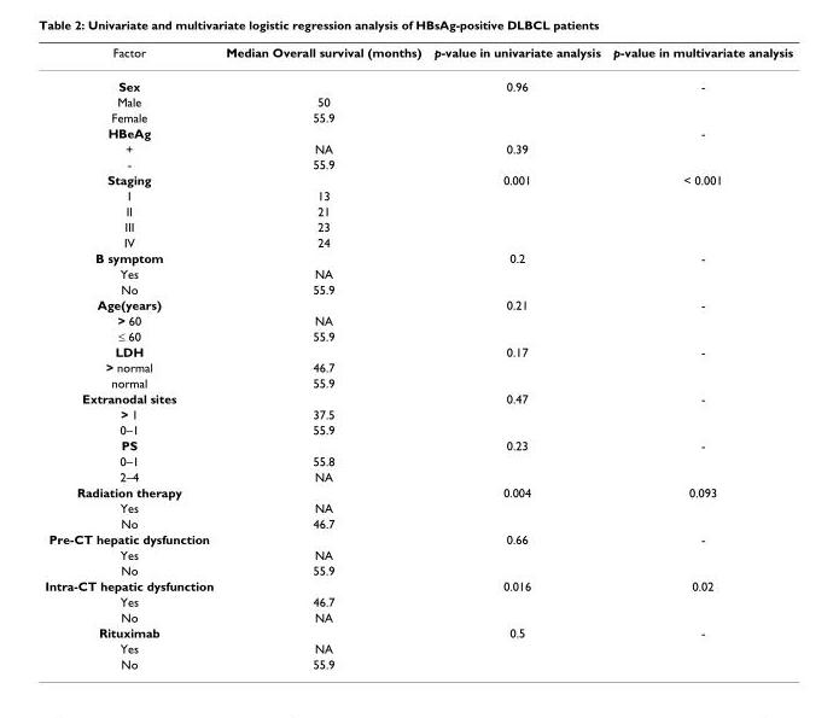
<table><thead><tr><td>Factor</td><td>Median Overall survival (months)</td><td>p-value in univariate analysis</td><td>p-value in multivariate analysis</td></tr></thead><tbody><tr><td>Sex</td><td></td><td>0.96</td><td>-</td></tr><tr><td>Male</td><td>50</td><td></td><td></td></tr><tr><td>Female</td><td>55.9</td><td></td><td></td></tr><tr><td>HBeAg</td><td></td><td></td><td>-</td></tr><tr><td>+</td><td>NA</td><td>0.39</td><td></td></tr><tr><td>-</td><td>55.9</td><td></td><td></td></tr><tr><td>Staging</td><td></td><td>0.001</td><td>&lt; 0.001</td></tr><tr><td>I</td><td>13</td><td></td><td></td></tr><tr><td>II</td><td>21</td><td></td><td></td></tr><tr><td>III</td><td>23</td><td></td><td></td></tr><tr><td>IV</td><td>24</td><td></td><td></td></tr><tr><td>B symptom</td><td></td><td>0.2</td><td>-</td></tr><tr><td>Yes</td><td>NA</td><td></td><td></td></tr><tr><td>No</td><td>55.9</td><td></td><td></td></tr><tr><td>Age(years)</td><td></td><td>0.21</td><td>-</td></tr><tr><td>&gt; 60</td><td>NA</td><td></td><td></td></tr><tr><td>≤ 60</td><td>55.9</td><td></td><td></td></tr><tr><td>LDH</td><td></td><td>0.17</td><td>-</td></tr><tr><td>&gt; normal</td><td>46.7</td><td></td><td></td></tr><tr><td>normal</td><td>55.9</td><td></td><td></td></tr><tr><td>Extranodal sites</td><td></td><td>0.47</td><td>-</td></tr><tr><td>&gt; 1</td><td>37.5</td><td></td><td></td></tr><tr><td>0–1</td><td>55.9</td><td></td><td></td></tr><tr><td>PS</td><td></td><td>0.23</td><td>-</td></tr><tr><td>0–1</td><td>55.8</td><td></td><td></td></tr><tr><td>2–4</td><td>NA</td><td></td><td></td></tr><tr><td>Radiation therapy</td><td></td><td>0.004</td><td>0.093</td></tr><tr><td>Yes</td><td>NA</td><td></td><td></td></tr><tr><td>No</td><td>46.7</td><td></td><td></td></tr><tr><td>Pre-CT hepatic dysfunction</td><td></td><td>0.66</td><td>-</td></tr><tr><td>Yes</td><td>NA</td><td></td><td></td></tr><tr><td>No</td><td>55.9</td><td></td><td></td></tr><tr><td>Intra-CT hepatic dysfunction</td><td></td><td>0.016</td><td>0.02</td></tr><tr><td>Yes</td><td>46.7</td><td></td><td></td></tr><tr><td>No</td><td>NA</td><td></td><td></td></tr><tr><td>Rituximab</td><td></td><td>0.5</td><td>-</td></tr><tr><td>Yes</td><td>NA</td><td></td><td></td></tr><tr><td>No</td><td>55.9</td><td></td><td></td></tr></tbody></table>